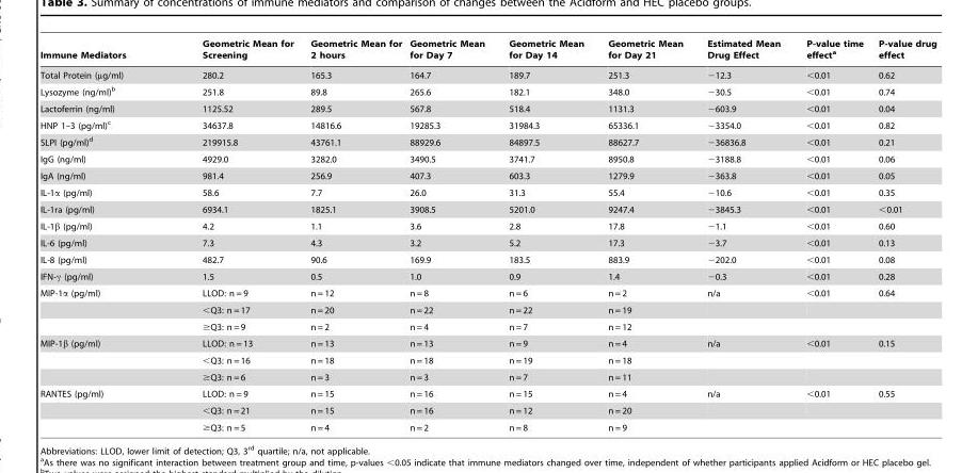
<table><thead><tr><td>Immune Mediators</td><td>Geometric Mean for Screening</td><td>Geometric Mean for 2 hours</td><td>Geometric Mean for Day 7</td><td>Geometric Mean for Day 14</td><td>Geometric Mean for Day 21</td><td>Estimated Mean Drug Effect</td><td>P-value time effect<sup>a</sup></td><td>P-value drug effect</td></tr></thead><tbody><tr><td>Total Protein (µg/ml)</td><td>280.2</td><td>165.3</td><td>164.7</td><td>189.7</td><td>251.3</td><td>−12.3</td><td>&lt;0.01</td><td>0.62</td></tr><tr><td>Lysozyme (ng/ml)<sup>b</sup></td><td>251.8</td><td>89.8</td><td>265.6</td><td>182.1</td><td>348.0</td><td>−30.5</td><td>&lt;0.01</td><td>0.74</td></tr><tr><td>Lactoferrin (ng/ml)</td><td>1125.52</td><td>289.5</td><td>567.8</td><td>518.4</td><td>1131.3</td><td>−603.9</td><td>&lt;0.01</td><td>0.04</td></tr><tr><td>HNP 1–3 (pg/ml)<sup>c</sup></td><td>34637.8</td><td>14816.6</td><td>19285.3</td><td>31984.3</td><td>65336.1</td><td>−3354.0</td><td>&lt;0.01</td><td>0.82</td></tr><tr><td>SLPI (pg/ml)<sup>d</sup></td><td>219915.8</td><td>43761.1</td><td>88929.6</td><td>84897.5</td><td>88627.7</td><td>−36836.8</td><td>&lt;0.01</td><td>0.21</td></tr><tr><td>IgG (ng/ml)</td><td>4929.0</td><td>3282.0</td><td>3490.5</td><td>3741.7</td><td>8950.8</td><td>−3188.8</td><td>&lt;0.01</td><td>0.06</td></tr><tr><td>IgA (ng/ml)</td><td>981.4</td><td>256.9</td><td>407.3</td><td>603.3</td><td>1279.9</td><td>−363.8</td><td>&lt;0.01</td><td>0.05</td></tr><tr><td>IL-1α (pg/ml)</td><td>58.6</td><td>7.7</td><td>26.0</td><td>31.3</td><td>55.4</td><td>−10.6</td><td>&lt;0.01</td><td>0.35</td></tr><tr><td>IL-1ra (pg/ml)</td><td>6934.1</td><td>1825.1</td><td>3908.5</td><td>5201.0</td><td>9247.4</td><td>−3845.3</td><td>&lt;0.01</td><td>&lt;0.01</td></tr><tr><td>IL-1β (pg/ml)</td><td>4.2</td><td>1.1</td><td>3.6</td><td>2.8</td><td>17.8</td><td>−1.1</td><td>&lt;0.01</td><td>0.60</td></tr><tr><td>IL-6 (pg/ml)</td><td>7.3</td><td>4.3</td><td>3.2</td><td>5.2</td><td>17.3</td><td>−3.7</td><td>&lt;0.01</td><td>0.13</td></tr><tr><td>IL-8 (pg/ml)</td><td>482.7</td><td>90.6</td><td>169.9</td><td>183.5</td><td>883.9</td><td>−202.0</td><td>&lt;0.01</td><td>0.08</td></tr><tr><td>IFN-γ (pg/ml)</td><td>1.5</td><td>0.5</td><td>1.0</td><td>0.9</td><td>1.4</td><td>−0.3</td><td>&lt;0.01</td><td>0.28</td></tr><tr><td rowspan="3">MIP-1α (pg/ml)</td><td>LLOD: n = 9</td><td>n = 12</td><td>n = 8</td><td>n = 6</td><td>n = 2</td><td>n/a</td><td>&lt;0.01</td><td>0.64</td></tr><tr><td>&lt;Q3: n = 17</td><td>n = 20</td><td>n = 22</td><td>n = 22</td><td>n = 19</td><td></td><td></td><td></td></tr><tr><td>≥Q3: n = 9</td><td>n = 2</td><td>n = 4</td><td>n = 7</td><td>n = 12</td><td></td><td></td><td></td></tr><tr><td rowspan="3">MIP-1β (pg/ml)</td><td>LLOD: n = 13</td><td>n = 13</td><td>n = 13</td><td>n = 9</td><td>n = 4</td><td>n/a</td><td>&lt;0.01</td><td>0.15</td></tr><tr><td>&lt;Q3: n = 16</td><td>n = 18</td><td>n = 18</td><td>n = 19</td><td>n = 18</td><td></td><td></td><td></td></tr><tr><td>≥Q3: n = 6</td><td>n = 3</td><td>n = 3</td><td>n = 7</td><td>n = 11</td><td></td><td></td><td></td></tr><tr><td rowspan="3">RANTES (pg/ml)</td><td>LLOD: n = 9</td><td>n = 15</td><td>n = 16</td><td>n = 15</td><td>n = 4</td><td>n/a</td><td>&lt;0.01</td><td>0.55</td></tr><tr><td>&lt;Q3: n = 21</td><td>n = 15</td><td>n = 16</td><td>n = 12</td><td>n = 20</td><td></td><td></td><td></td></tr><tr><td>≥Q3: n = 5</td><td>n = 4</td><td>n = 2</td><td>n = 8</td><td>n = 9</td><td></td><td></td><td></td></tr></tbody></table>